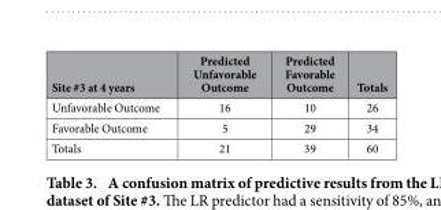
<table><thead><tr><td>Site #3 at 4 years</td><td>Predicted Unfavorable Outcome</td><td>Predicted Favorable Outcome</td><td>Totals</td></tr></thead><tbody><tr><td>Unfavorable Outcome</td><td>16</td><td>10</td><td>26</td></tr><tr><td>Favorable Outcome</td><td>5</td><td>29</td><td>34</td></tr><tr><td>Totals</td><td>21</td><td>39</td><td>60</td></tr></tbody></table>